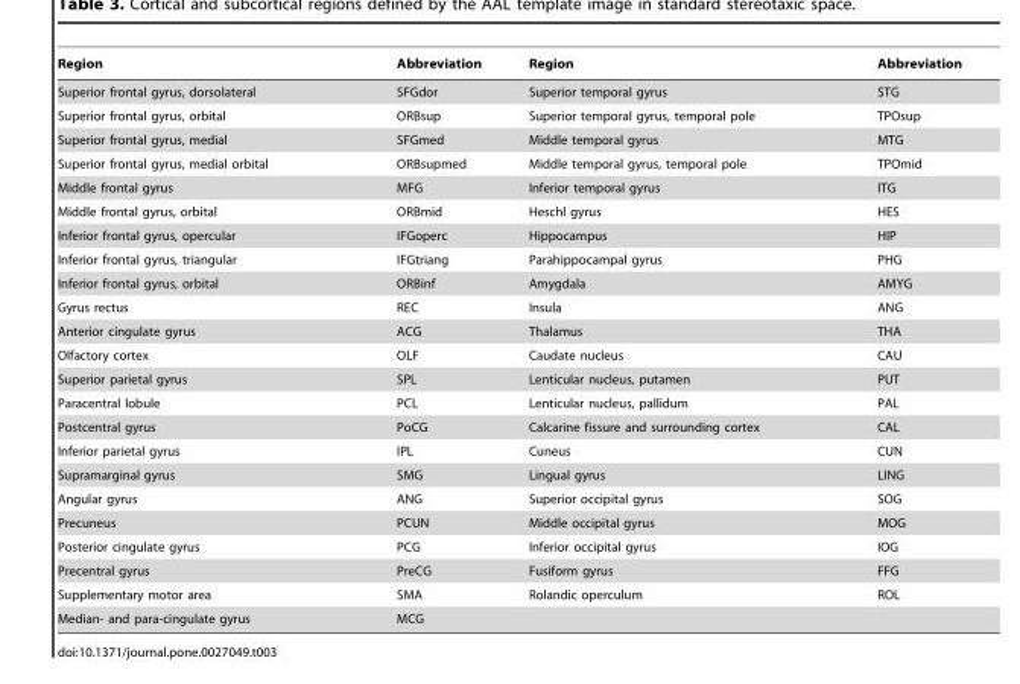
<table><thead><tr><td>Region</td><td>Abbreviation</td><td>Region</td><td>Abbreviation</td></tr></thead><tbody><tr><td>Superior frontal gyrus, dorsolateral</td><td>SFGdor</td><td>Superior temporal gyrus</td><td>STG</td></tr><tr><td>Superior frontal gyrus, orbital</td><td>ORBsup</td><td>Superior temporal gyrus, temporal pole</td><td>TPOsup</td></tr><tr><td>Superior frontal gyrus, medial</td><td>SFGmed</td><td>Middle temporal gyrus</td><td>MTG</td></tr><tr><td>Superior frontal gyrus, medial orbital</td><td>ORBsupmed</td><td>Middle temporal gyrus, temporal pole</td><td>TPOmid</td></tr><tr><td>Middle frontal gyrus</td><td>MFG</td><td>Inferior temporal gyrus</td><td>ITG</td></tr><tr><td>Middle frontal gyrus, orbital</td><td>ORBmid</td><td>Heschl gyrus</td><td>HES</td></tr><tr><td>Inferior frontal gyrus, opercular</td><td>IFGoperc</td><td>Hippocampus</td><td>HIP</td></tr><tr><td>Inferior frontal gyrus, triangular</td><td>IFGtriang</td><td>Parahippocampal gyrus</td><td>PHG</td></tr><tr><td>Inferior frontal gyrus, orbital</td><td>ORBinf</td><td>Amygdala</td><td>AMYG</td></tr><tr><td>Gyrus rectus</td><td>REC</td><td>Insula</td><td>ANG</td></tr><tr><td>Anterior cingulate gyrus</td><td>ACG</td><td>Thalamus</td><td>THA</td></tr><tr><td>Olfactory cortex</td><td>OLF</td><td>Caudate nucleus</td><td>CAU</td></tr><tr><td>Superior parietal gyrus</td><td>SPL</td><td>Lenticular nucleus, putamen</td><td>PUT</td></tr><tr><td>Paracentral lobule</td><td>PCL</td><td>Lenticular nucleus, pallidum</td><td>PAL</td></tr><tr><td>Postcentral gyrus</td><td>PoCG</td><td>Calcarine fissure and surrounding cortex</td><td>CAL</td></tr><tr><td>Inferior parietal gyrus</td><td>IPL</td><td>Cuneus</td><td>CUN</td></tr><tr><td>Supramarginal gyrus</td><td>SMG</td><td>Lingual gyrus</td><td>LING</td></tr><tr><td>Angular gyrus</td><td>ANG</td><td>Superior occipital gyrus</td><td>SOG</td></tr><tr><td>Precuneus</td><td>PCUN</td><td>Middle occipital gyrus</td><td>MOG</td></tr><tr><td>Posterior cingulate gyrus</td><td>PCG</td><td>Inferior occipital gyrus</td><td>IOG</td></tr><tr><td>Precentral gyrus</td><td>PreCG</td><td>Fusiform gyrus</td><td>FFG</td></tr><tr><td>Supplementary motor area</td><td>SMA</td><td>Rolandic operculum</td><td>ROL</td></tr><tr><td>Median- and para-cingulate gyrus</td><td>MCG</td><td></td><td></td></tr></tbody></table>